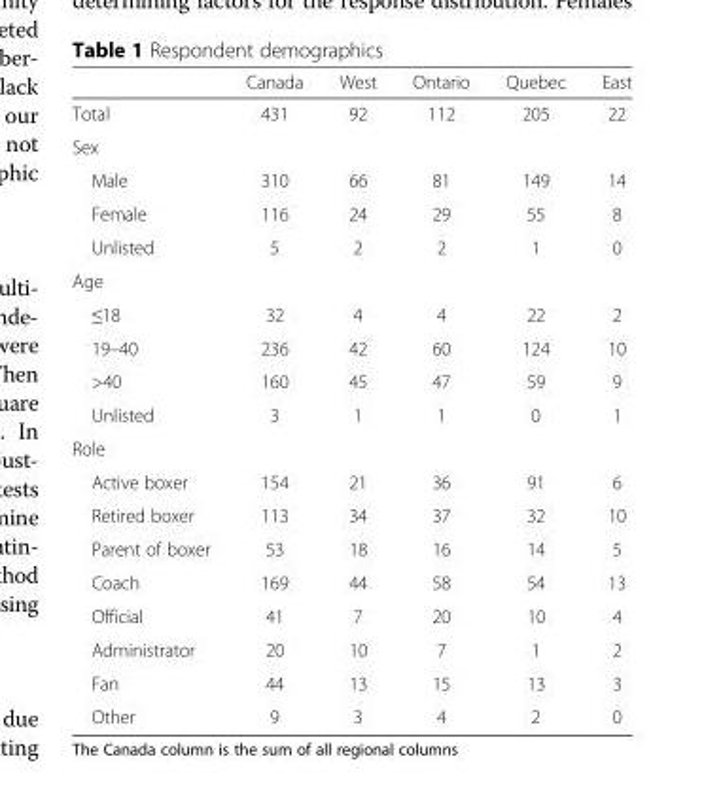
<table><thead><tr><td></td><td>Canada</td><td>West</td><td>Ontario</td><td>Quebec</td><td>East</td></tr></thead><tbody><tr><td>Total</td><td>431</td><td>92</td><td>112</td><td>205</td><td>22</td></tr><tr><td colspan="6">Sex</td></tr><tr><td>Male</td><td>310</td><td>66</td><td>81</td><td>149</td><td>14</td></tr><tr><td>Female</td><td>116</td><td>24</td><td>29</td><td>55</td><td>8</td></tr><tr><td>Unlisted</td><td>5</td><td>2</td><td>2</td><td>1</td><td>0</td></tr><tr><td colspan="6">Age</td></tr><tr><td>≤18</td><td>32</td><td>4</td><td>4</td><td>22</td><td>2</td></tr><tr><td>19–40</td><td>236</td><td>42</td><td>60</td><td>124</td><td>10</td></tr><tr><td>&gt;40</td><td>160</td><td>45</td><td>47</td><td>59</td><td>9</td></tr><tr><td>Unlisted</td><td>3</td><td>1</td><td>1</td><td>0</td><td>1</td></tr><tr><td colspan="6">Role</td></tr><tr><td>Active boxer</td><td>154</td><td>21</td><td>36</td><td>91</td><td>6</td></tr><tr><td>Retired boxer</td><td>113</td><td>34</td><td>37</td><td>32</td><td>10</td></tr><tr><td>Parent of boxer</td><td>53</td><td>18</td><td>16</td><td>14</td><td>5</td></tr><tr><td>Coach</td><td>169</td><td>44</td><td>58</td><td>54</td><td>13</td></tr><tr><td>Official</td><td>41</td><td>7</td><td>20</td><td>10</td><td>4</td></tr><tr><td>Administrator</td><td>20</td><td>10</td><td>7</td><td>1</td><td>2</td></tr><tr><td>Fan</td><td>44</td><td>13</td><td>15</td><td>13</td><td>3</td></tr><tr><td>Other</td><td>9</td><td>3</td><td>4</td><td>2</td><td>0</td></tr></tbody></table>